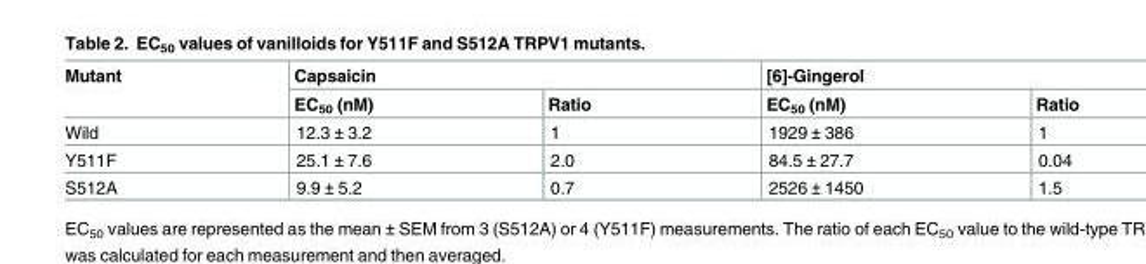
<table><thead><tr><td rowspan="2">Mutant</td><td colspan="2">Capsaicin</td><td colspan="2">[6]-Gingerol</td></tr><tr><td>EC<sub>50</sub> (nM)</td><td>Ratio</td><td>EC<sub>50</sub> (nM)</td><td>Ratio</td></tr></thead><tbody><tr><td>Wild</td><td>12.3 ± 3.2</td><td>1</td><td>1929 ± 386</td><td>1</td></tr><tr><td>Y511F</td><td>25.1 ± 7.6</td><td>2.0</td><td>84.5 ± 27.7</td><td>0.04</td></tr><tr><td>S512A</td><td>9.9 ± 5.2</td><td>0.7</td><td>2526 ± 1450</td><td>1.5</td></tr></tbody></table>